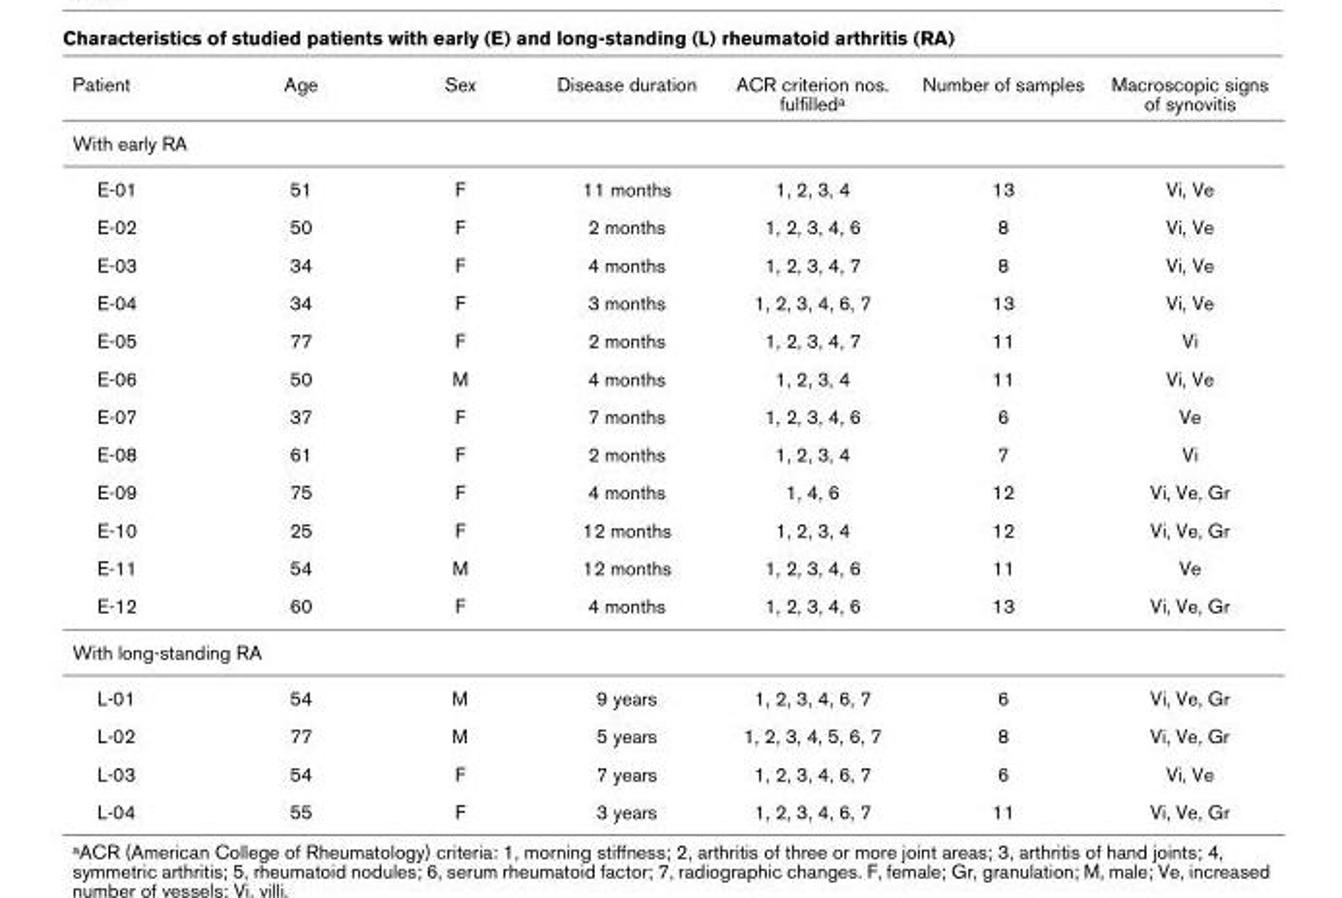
<table><thead><tr><td>Patient</td><td>Age</td><td>Sex</td><td>Disease duration</td><td>ACR criterion nos. fulfilleda</td><td>Number of samples</td><td>Macroscopic signs of synovitis</td></tr></thead><tbody><tr><td colspan="7">With early RA</td></tr><tr><td>E-01</td><td>51</td><td>F</td><td>11 months</td><td>1, 2, 3, 4</td><td>13</td><td>Vi, Ve</td></tr><tr><td>E-02</td><td>50</td><td>F</td><td>2 months</td><td>1, 2, 3, 4, 6</td><td>8</td><td>Vi, Ve</td></tr><tr><td>E-03</td><td>34</td><td>F</td><td>4 months</td><td>1, 2, 3, 4, 7</td><td>8</td><td>Vi, Ve</td></tr><tr><td>E-04</td><td>34</td><td>F</td><td>3 months</td><td>1, 2, 3, 4, 6, 7</td><td>13</td><td>Vi, Ve</td></tr><tr><td>E-05</td><td>77</td><td>F</td><td>2 months</td><td>1, 2, 3, 4, 7</td><td>11</td><td>Vi</td></tr><tr><td>E-06</td><td>50</td><td>M</td><td>4 months</td><td>1, 2, 3, 4</td><td>11</td><td>Vi, Ve</td></tr><tr><td>E-07</td><td>37</td><td>F</td><td>7 months</td><td>1, 2, 3, 4, 6</td><td>6</td><td>Ve</td></tr><tr><td>E-08</td><td>61</td><td>F</td><td>2 months</td><td>1, 2, 3, 4</td><td>7</td><td>Vi</td></tr><tr><td>E-09</td><td>75</td><td>F</td><td>4 months</td><td>1, 4, 6</td><td>12</td><td>Vi, Ve, Gr</td></tr><tr><td>E-10</td><td>25</td><td>F</td><td>12 months</td><td>1, 2, 3, 4</td><td>12</td><td>Vi, Ve, Gr</td></tr><tr><td>E-11</td><td>54</td><td>M</td><td>12 months</td><td>1, 2, 3, 4, 6</td><td>11</td><td>Ve</td></tr><tr><td>E-12</td><td>60</td><td>F</td><td>4 months</td><td>1, 2, 3, 4, 6</td><td>13</td><td>Vi, Ve, Gr</td></tr><tr><td colspan="7">With long-standing RA</td></tr><tr><td>L-01</td><td>54</td><td>M</td><td>9 years</td><td>1, 2, 3, 4, 6, 7</td><td>6</td><td>Vi, Ve, Gr</td></tr><tr><td>L-02</td><td>77</td><td>M</td><td>5 years</td><td>1, 2, 3, 4, 5, 6, 7</td><td>8</td><td>Vi, Ve, Gr</td></tr><tr><td>L-03</td><td>54</td><td>F</td><td>7 years</td><td>1, 2, 3, 4, 6, 7</td><td>6</td><td>Vi, Ve</td></tr><tr><td>L-04</td><td>55</td><td>F</td><td>3 years</td><td>1, 2, 3, 4, 6, 7</td><td>11</td><td>Vi, Ve, Gr</td></tr></tbody></table>